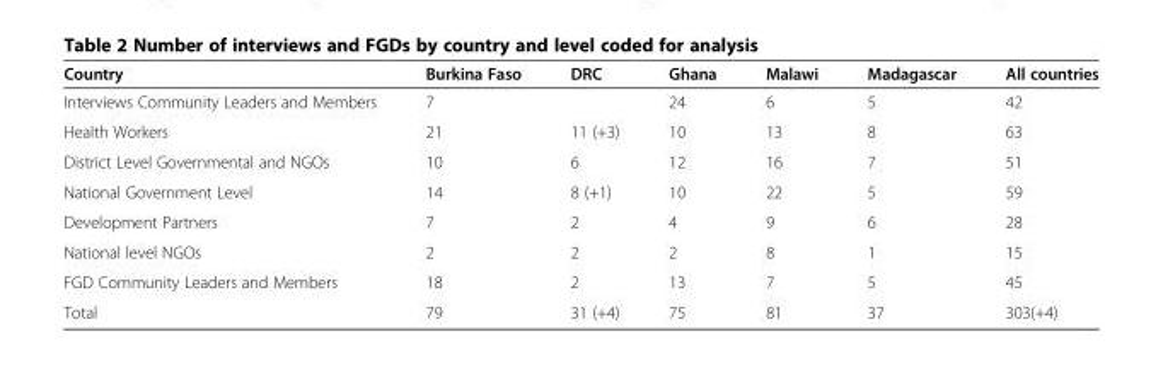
<table><thead><tr><td>Country</td><td>Burkina Faso</td><td>DRC</td><td>Ghana</td><td>Malawi</td><td>Madagascar</td><td>All countries</td></tr></thead><tbody><tr><td>Interviews Community Leaders and Members</td><td>7</td><td></td><td>24</td><td>6</td><td>5</td><td>42</td></tr><tr><td>Health Workers</td><td>21</td><td>11 (+3)</td><td>10</td><td>13</td><td>8</td><td>63</td></tr><tr><td>District Level Governmental and NGOs</td><td>10</td><td>6</td><td>12</td><td>16</td><td>7</td><td>51</td></tr><tr><td>National Government Level</td><td>14</td><td>8 (+1)</td><td>10</td><td>22</td><td>5</td><td>59</td></tr><tr><td>Development Partners</td><td>7</td><td>2</td><td>4</td><td>9</td><td>6</td><td>28</td></tr><tr><td>National level NGOs</td><td>2</td><td>2</td><td>2</td><td>8</td><td>1</td><td>15</td></tr><tr><td>FGD Community Leaders and Members</td><td>18</td><td>2</td><td>13</td><td>7</td><td>5</td><td>45</td></tr><tr><td>Total</td><td>79</td><td>31 (+4)</td><td>75</td><td>81</td><td>37</td><td>303(+4)</td></tr></tbody></table>